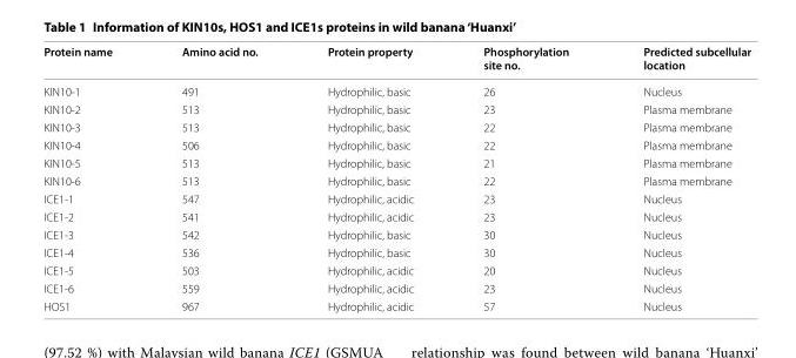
<table><thead><tr><td>Protein name</td><td>Amino acid no.</td><td>Protein property</td><td>Phosphorylation site no.</td><td>Predicted subcellular location</td></tr></thead><tbody><tr><td>KIN10-1</td><td>491</td><td>Hydrophilic, basic</td><td>26</td><td>Nucleus</td></tr><tr><td>KIN10-2</td><td>513</td><td>Hydrophilic, basic</td><td>23</td><td>Plasma membrane</td></tr><tr><td>KIN10-3</td><td>513</td><td>Hydrophilic, basic</td><td>22</td><td>Plasma membrane</td></tr><tr><td>KIN10-4</td><td>506</td><td>Hydrophilic, basic</td><td>22</td><td>Plasma membrane</td></tr><tr><td>KIN10-5</td><td>513</td><td>Hydrophilic, basic</td><td>21</td><td>Plasma membrane</td></tr><tr><td>KIN10-6</td><td>513</td><td>Hydrophilic, basic</td><td>22</td><td>Plasma membrane</td></tr><tr><td>ICE1-1</td><td>547</td><td>Hydrophilic, acidic</td><td>23</td><td>Nucleus</td></tr><tr><td>ICE1-2</td><td>541</td><td>Hydrophilic, acidic</td><td>23</td><td>Nucleus</td></tr><tr><td>ICE1-3</td><td>542</td><td>Hydrophilic, basic</td><td>30</td><td>Nucleus</td></tr><tr><td>ICE1-4</td><td>536</td><td>Hydrophilic, basic</td><td>30</td><td>Nucleus</td></tr><tr><td>ICE1-5</td><td>503</td><td>Hydrophilic, acidic</td><td>20</td><td>Nucleus</td></tr><tr><td>ICE1-6</td><td>559</td><td>Hydrophilic, acidic</td><td>23</td><td>Nucleus</td></tr><tr><td>HOS1</td><td>967</td><td>Hydrophilic, acidic</td><td>57</td><td>Nucleus</td></tr></tbody></table>